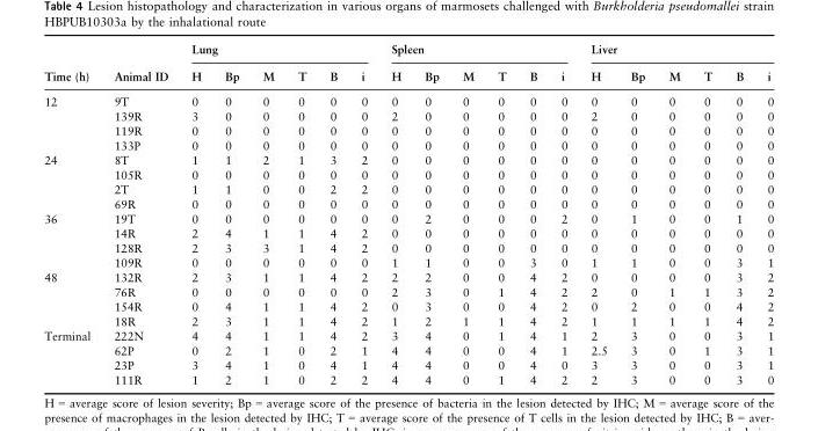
<table><thead><tr><td rowspan="2">Time (h)</td><td rowspan="2">Animal ID</td><td colspan="6">Lung</td><td colspan="6">Spleen</td><td colspan="6">Liver</td></tr><tr><td>H</td><td>Bp</td><td>M</td><td>T</td><td>B</td><td>i</td><td>H</td><td>Bp</td><td>M</td><td>T</td><td>B</td><td>i</td><td>H</td><td>Bp</td><td>M</td><td>T</td><td>B</td><td>i</td></tr></thead><tbody><tr><td rowspan="4">12</td><td>9T</td><td>0</td><td>0</td><td>0</td><td>0</td><td>0</td><td>0</td><td>0</td><td>0</td><td>0</td><td>0</td><td>0</td><td>0</td><td>0</td><td>0</td><td>0</td><td>0</td><td>0</td><td>0</td></tr><tr><td>139R</td><td>3</td><td>0</td><td>0</td><td>0</td><td>0</td><td>0</td><td>2</td><td>0</td><td>0</td><td>0</td><td>0</td><td>0</td><td>2</td><td>0</td><td>0</td><td>0</td><td>0</td><td>0</td></tr><tr><td>119R</td><td>0</td><td>0</td><td>0</td><td>0</td><td>0</td><td>0</td><td>0</td><td>0</td><td>0</td><td>0</td><td>0</td><td>0</td><td>0</td><td>0</td><td>0</td><td>0</td><td>0</td><td>0</td></tr><tr><td>133P</td><td>0</td><td>0</td><td>0</td><td>0</td><td>0</td><td>0</td><td>0</td><td>0</td><td>0</td><td>0</td><td>0</td><td>0</td><td>0</td><td>0</td><td>0</td><td>0</td><td>0</td><td>0</td></tr><tr><td rowspan="4">24</td><td>8T</td><td>1</td><td>1</td><td>2</td><td>1</td><td>3</td><td>2</td><td>0</td><td>0</td><td>0</td><td>0</td><td>0</td><td>0</td><td>0</td><td>0</td><td>0</td><td>0</td><td>0</td><td>0</td></tr><tr><td>105R</td><td>0</td><td>0</td><td>0</td><td>0</td><td>0</td><td>0</td><td>0</td><td>0</td><td>0</td><td>0</td><td>0</td><td>0</td><td>0</td><td>0</td><td>0</td><td>0</td><td>0</td><td>0</td></tr><tr><td>2T</td><td>1</td><td>1</td><td>0</td><td>0</td><td>2</td><td>2</td><td>0</td><td>0</td><td>0</td><td>0</td><td>0</td><td>0</td><td>0</td><td>0</td><td>0</td><td>0</td><td>0</td><td>0</td></tr><tr><td>69R</td><td>0</td><td>0</td><td>0</td><td>0</td><td>0</td><td>0</td><td>0</td><td>0</td><td>0</td><td>0</td><td>0</td><td>0</td><td>0</td><td>0</td><td>0</td><td>0</td><td>0</td><td>0</td></tr><tr><td rowspan="4">36</td><td>19T</td><td>0</td><td>0</td><td>0</td><td>0</td><td>0</td><td>0</td><td>0</td><td>2</td><td>0</td><td>0</td><td>0</td><td>2</td><td>0</td><td>1</td><td>0</td><td>0</td><td>1</td><td>0</td></tr><tr><td>14R</td><td>2</td><td>4</td><td>1</td><td>1</td><td>4</td><td>2</td><td>0</td><td>0</td><td>0</td><td>0</td><td>0</td><td>0</td><td>0</td><td>0</td><td>0</td><td>0</td><td>0</td><td>0</td></tr><tr><td>128R</td><td>2</td><td>3</td><td>3</td><td>1</td><td>4</td><td>2</td><td>0</td><td>0</td><td>0</td><td>0</td><td>0</td><td>0</td><td>0</td><td>0</td><td>0</td><td>0</td><td>0</td><td>0</td></tr><tr><td>109R</td><td>0</td><td>0</td><td>0</td><td>0</td><td>0</td><td>0</td><td>1</td><td>1</td><td>0</td><td>0</td><td>3</td><td>0</td><td>1</td><td>1</td><td>0</td><td>0</td><td>3</td><td>1</td></tr><tr><td rowspan="4">48</td><td>132R</td><td>2</td><td>3</td><td>1</td><td>1</td><td>4</td><td>2</td><td>2</td><td>2</td><td>0</td><td>0</td><td>4</td><td>2</td><td>0</td><td>0</td><td>0</td><td>0</td><td>3</td><td>2</td></tr><tr><td>76R</td><td>0</td><td>0</td><td>0</td><td>0</td><td>0</td><td>0</td><td>2</td><td>3</td><td>0</td><td>1</td><td>4</td><td>2</td><td>2</td><td>0</td><td>1</td><td>1</td><td>3</td><td>2</td></tr><tr><td>154R</td><td>0</td><td>4</td><td>1</td><td>1</td><td>4</td><td>2</td><td>0</td><td>3</td><td>0</td><td>0</td><td>4</td><td>2</td><td>0</td><td>2</td><td>0</td><td>0</td><td>4</td><td>2</td></tr><tr><td>18R</td><td>2</td><td>3</td><td>1</td><td>1</td><td>4</td><td>2</td><td>1</td><td>2</td><td>1</td><td>1</td><td>4</td><td>2</td><td>1</td><td>1</td><td>1</td><td>1</td><td>4</td><td>2</td></tr><tr><td rowspan="4">Terminal</td><td>222N</td><td>4</td><td>4</td><td>1</td><td>1</td><td>4</td><td>2</td><td>3</td><td>4</td><td>0</td><td>1</td><td>4</td><td>1</td><td>2</td><td>3</td><td>0</td><td>0</td><td>3</td><td>1</td></tr><tr><td>62P</td><td>0</td><td>2</td><td>1</td><td>0</td><td>2</td><td>1</td><td>4</td><td>4</td><td>0</td><td>0</td><td>4</td><td>1</td><td>2.5</td><td>3</td><td>0</td><td>1</td><td>3</td><td>1</td></tr><tr><td>23P</td><td>3</td><td>4</td><td>1</td><td>0</td><td>4</td><td>1</td><td>4</td><td>4</td><td>0</td><td>0</td><td>4</td><td>0</td><td>3</td><td>3</td><td>0</td><td>0</td><td>3</td><td>1</td></tr><tr><td>111R</td><td>1</td><td>2</td><td>1</td><td>0</td><td>2</td><td>2</td><td>4</td><td>4</td><td>0</td><td>1</td><td>4</td><td>2</td><td>2</td><td>3</td><td>0</td><td>0</td><td>3</td><td>0</td></tr></tbody></table>